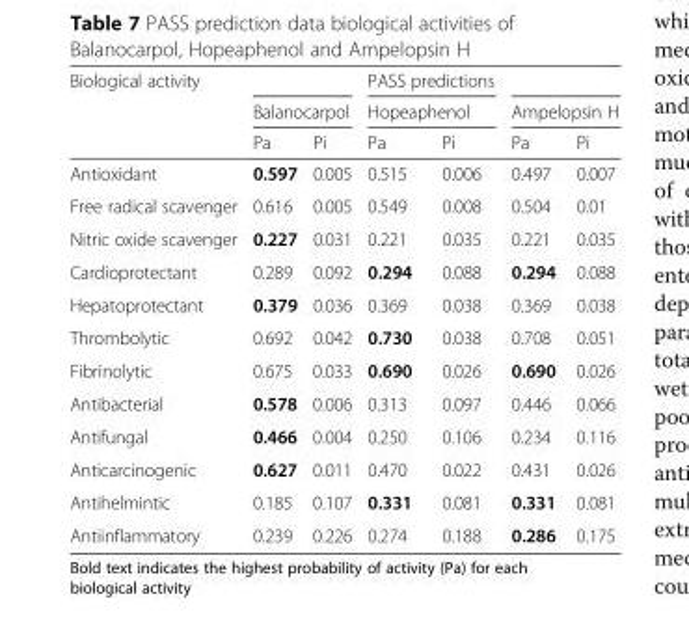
<table><thead><tr><td rowspan="3">Biological activity</td><td></td><td></td><td rowspan="2" colspan="2">PASS predictions Hopeaphenol</td><td></td><td></td></tr><tr><td colspan="2">Balanocarpol</td><td colspan="2">Ampelopsin H</td></tr><tr><td>Pa</td><td>Pi</td><td>Pa</td><td>Pi</td><td>Pa</td><td>Pi</td></tr></thead><tbody><tr><td>Antioxidant</td><td>0.597</td><td>0.005</td><td>0.515</td><td>0.006</td><td>0.497</td><td>0.007</td></tr><tr><td>Free radical scavenger</td><td>0.616</td><td>0.005</td><td>0.549</td><td>0.008</td><td>0.504</td><td>0.01</td></tr><tr><td>Nitric oxide scavenger</td><td>0.227</td><td>0.031</td><td>0.221</td><td>0.035</td><td>0.221</td><td>0.035</td></tr><tr><td>Cardioprotectant</td><td>0.289</td><td>0.092</td><td>0.294</td><td>0.088</td><td>0.294</td><td>0.088</td></tr><tr><td>Hepatoprotectant</td><td>0.379</td><td>0.036</td><td>0.369</td><td>0.038</td><td>0.369</td><td>0.038</td></tr><tr><td>Thrombolytic</td><td>0.692</td><td>0.042</td><td>0.730</td><td>0.038</td><td>0.708</td><td>0.051</td></tr><tr><td>Fibrinolytic</td><td>0.675</td><td>0.033</td><td>0.690</td><td>0.026</td><td>0.690</td><td>0.026</td></tr><tr><td>Antibacterial</td><td>0.578</td><td>0.006</td><td>0.313</td><td>0.097</td><td>0.446</td><td>0.066</td></tr><tr><td>Antifungal</td><td>0.466</td><td>0.004</td><td>0.250</td><td>0.106</td><td>0.234</td><td>0.116</td></tr><tr><td>Anticarcinogenic</td><td>0.627</td><td>0.011</td><td>0.470</td><td>0.022</td><td>0.431</td><td>0.026</td></tr><tr><td>Antihelmintic</td><td>0.185</td><td>0.107</td><td>0.331</td><td>0.081</td><td>0.331</td><td>0.081</td></tr><tr><td>Antiinflammatory</td><td>0.239</td><td>0.226</td><td>0.274</td><td>0.188</td><td>0.286</td><td>0.175</td></tr></tbody></table>